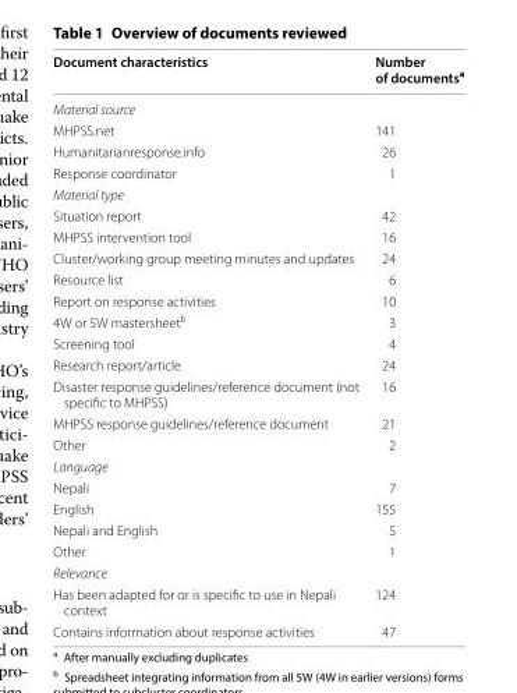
<table><thead><tr><td>Document characteristics</td><td>Number of documents<sup>a</sup></td></tr></thead><tbody><tr><td colspan="2">Material source</td></tr><tr><td>MHPSS.net</td><td>141</td></tr><tr><td>Humanitarianresponse.info</td><td>26</td></tr><tr><td>Response coordinator</td><td>1</td></tr><tr><td colspan="2">Material type</td></tr><tr><td>Situation report</td><td>42</td></tr><tr><td>MHPSS intervention tool</td><td>16</td></tr><tr><td>Cluster/working group meeting minutes and updates</td><td>24</td></tr><tr><td>Resource list</td><td>6</td></tr><tr><td>Report on response activities</td><td>10</td></tr><tr><td>4W or 5W mastersheet<sup>b</sup></td><td>3</td></tr><tr><td>Screening tool</td><td>4</td></tr><tr><td>Research report/article</td><td>24</td></tr><tr><td>Disaster response guidelines/reference document (not specific to MHPSS)</td><td>16</td></tr><tr><td>MHPSS response guidelines/reference document</td><td>21</td></tr><tr><td>Other</td><td>2</td></tr><tr><td colspan="2">Language</td></tr><tr><td>Nepali</td><td>7</td></tr><tr><td>English</td><td>155</td></tr><tr><td>Nepali and English</td><td>5</td></tr><tr><td>Other</td><td>1</td></tr><tr><td colspan="2">Relevance</td></tr><tr><td>Has been adapted for or is specific to use in Nepali context</td><td>124</td></tr><tr><td>Contains information about response activities</td><td>47</td></tr></tbody></table>